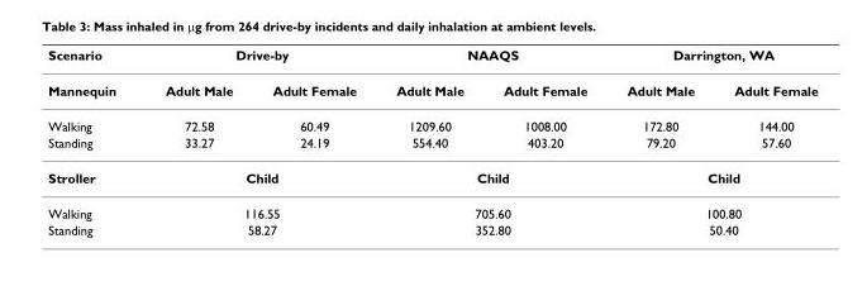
<table><thead><tr><td rowspan="2">Scenario Mannequin</td><td colspan="2">Drive-by</td><td colspan="2">NAAQS</td><td colspan="2">Darrington, WA</td></tr><tr><td>Adult Male</td><td>Adult Female</td><td>Adult Male</td><td>Adult Female</td><td>Adult Male</td><td>Adult Female</td></tr></thead><tbody><tr><td>Walking</td><td>72.58</td><td>60.49</td><td>1209.60</td><td>1008.00</td><td>172.80</td><td>144.00</td></tr><tr><td>Standing</td><td>33.27</td><td>24.19</td><td>554.40</td><td>403.20</td><td>79.20</td><td>57.60</td></tr><tr><td>Stroller</td><td colspan="2">Child</td><td colspan="2">Child</td><td colspan="2">Child</td></tr><tr><td>Walking</td><td colspan="2">116.55</td><td colspan="2">705.60</td><td colspan="2">100.80</td></tr><tr><td>Standing</td><td colspan="2">58.27</td><td colspan="2">352.80</td><td colspan="2">50.40</td></tr></tbody></table>